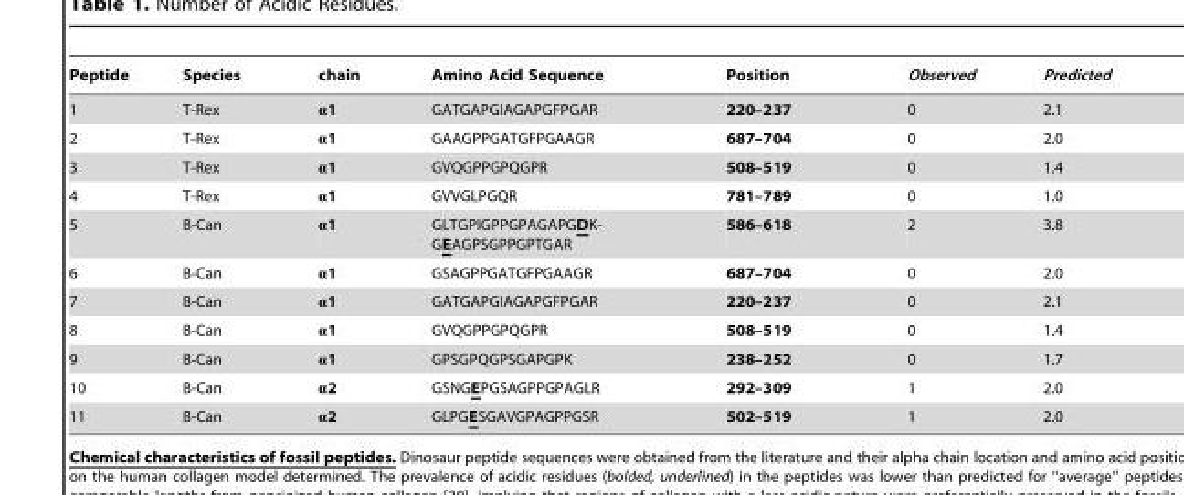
<table><thead><tr><td>Peptide</td><td>Species</td><td>chain</td><td>Amino Acid Sequence</td><td>Position</td><td>Observed</td><td>Predicted</td></tr></thead><tbody><tr><td>1</td><td>T-Rex</td><td>a1</td><td>GATGAPGIAGAPGFPGAR</td><td>220–237</td><td>0</td><td>2.1</td></tr><tr><td>2</td><td>T-Rex</td><td>a1</td><td>GAAGPPGATGFPGAAGR</td><td>687–704</td><td>0</td><td>2.0</td></tr><tr><td>3</td><td>T-Rex</td><td>a1</td><td>GVQGPPGPQGPR</td><td>508–519</td><td>0</td><td>1.4</td></tr><tr><td>4</td><td>T-Rex</td><td>a1</td><td>GVVGLPGQR</td><td>781–789</td><td>0</td><td>1.0</td></tr><tr><td>5</td><td>B-Can</td><td>a1</td><td>GLTGPIGPPGPAGAPGDK- GEAGPSGPPGPTGAR</td><td>586–618</td><td>2</td><td>3.8</td></tr><tr><td>6</td><td>B-Can</td><td>a1</td><td>GSAGPPGATGFPGAAGR</td><td>687–704</td><td>0</td><td>2.0</td></tr><tr><td>7</td><td>B-Can</td><td>a1</td><td>GATGAPGIAGAPGFPGAR</td><td>220–237</td><td>0</td><td>2.1</td></tr><tr><td>8</td><td>B-Can</td><td>a1</td><td>GVQGPPGPQGPR</td><td>508–519</td><td>0</td><td>1.4</td></tr><tr><td>9</td><td>B-Can</td><td>a1</td><td>GPSGPQGPSGAPGPK</td><td>238–252</td><td>0</td><td>1.7</td></tr><tr><td>10</td><td>B-Can</td><td>α2</td><td>GSNGEPGSAGPPGPAGLR</td><td>292–309</td><td>1</td><td>2.0</td></tr><tr><td>11</td><td>B-Can</td><td>α2</td><td>GLPGESGAVGPAGPPGSR</td><td>502–519</td><td>1</td><td>2.0</td></tr></tbody></table>